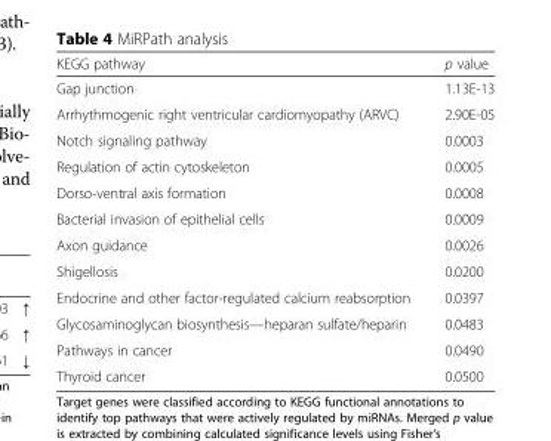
<table><thead><tr><td>KEGG pathway</td><td>p value</td></tr></thead><tbody><tr><td>Gap junction</td><td>1.13E-13</td></tr><tr><td>Arrhythmogenic right ventricular cardiomyopathy (ARVC)</td><td>2.90E-05</td></tr><tr><td>Notch signaling pathway</td><td>0.0003</td></tr><tr><td>Regulation of actin cytoskeleton</td><td>0.0005</td></tr><tr><td>Dorso-ventral axis formation</td><td>0.0008</td></tr><tr><td>Bacterial invasion of epithelial cells</td><td>0.0009</td></tr><tr><td>Axon guidance</td><td>0.0026</td></tr><tr><td>Shigellosis</td><td>0.0200</td></tr><tr><td>Endocrine and other factor-regulated calcium reabsorption</td><td>0.0397</td></tr><tr><td>Glycosaminoglycan biosynthesis—heparan sulfate/heparin</td><td>0.0483</td></tr><tr><td>Pathways in cancer</td><td>0.0490</td></tr><tr><td>Thyroid cancer</td><td>0.0500</td></tr></tbody></table>